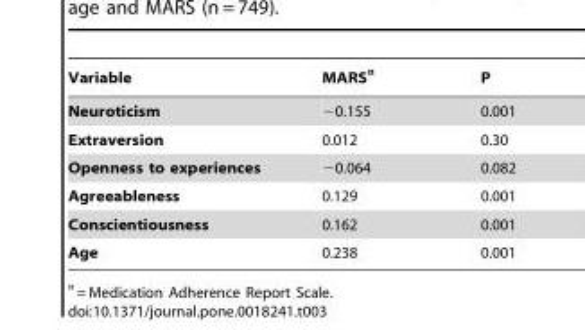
<table><thead><tr><td>Variable</td><td>MARS¤</td><td>P</td></tr></thead><tbody><tr><td>Neuroticism</td><td>−0.155</td><td>0.001</td></tr><tr><td>Extraversion</td><td>0.012</td><td>0.30</td></tr><tr><td>Openness to experiences</td><td>−0.064</td><td>0.082</td></tr><tr><td>Agreeableness</td><td>0.129</td><td>0.001</td></tr><tr><td>Conscientiousness</td><td>0.162</td><td>0.001</td></tr><tr><td>Age</td><td>0.238</td><td>0.001</td></tr></tbody></table>